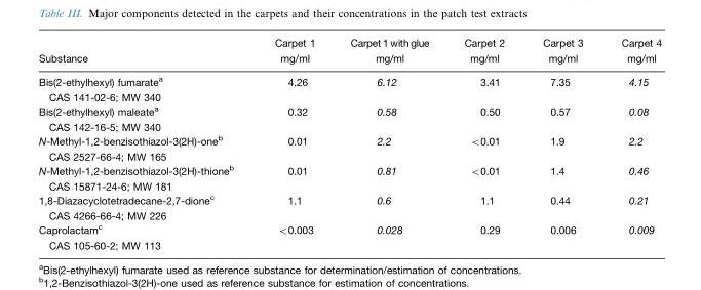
<table><thead><tr><td>Substance</td><td>Carpet 1 mg/ml</td><td>Carpet 1 with glue mg/ml</td><td>Carpet 2 mg/ml</td><td>Carpet 3 mg/ml</td><td>Carpet 4 mg/ml</td></tr></thead><tbody><tr><td>Bis(2-ethylhexyl) fumarate<sup>a</sup> CAS 141-02-6; MW 340</td><td>4.26</td><td>6.12</td><td>3.41</td><td>7.35</td><td>4.15</td></tr><tr><td>Bis(2-ethylhexyl) maleate<sup>a</sup> CAS 142-16-5; MW 340</td><td>0.32</td><td>0.58</td><td>0.50</td><td>0.57</td><td>0.08</td></tr><tr><td>N-Methyl-1,2-benzisothiazol-3(2H)-one<sup>b</sup> CAS 2527-66-4; MW 165</td><td>0.01</td><td>2.2</td><td>&lt;0.01</td><td>1.9</td><td>2.2</td></tr><tr><td>N-Methyl-1,2-benzisothiazol-3(2H)-thione<sup>b</sup> CAS 15871-24-6; MW 181</td><td>0.01</td><td>0.81</td><td>&lt;0.01</td><td>1.4</td><td>0.46</td></tr><tr><td>1,8-Diazacyclotetradecane-2,7-dione<sup>c</sup> CAS 4266-66-4; MW 226</td><td>1.1</td><td>0.6</td><td>1.1</td><td>0.44</td><td>0.21</td></tr><tr><td>Caprolactam<sup>c</sup> CAS 105-60-2; MW 113</td><td>&lt;0.003</td><td>0.028</td><td>0.29</td><td>0.006</td><td>0.009</td></tr></tbody></table>